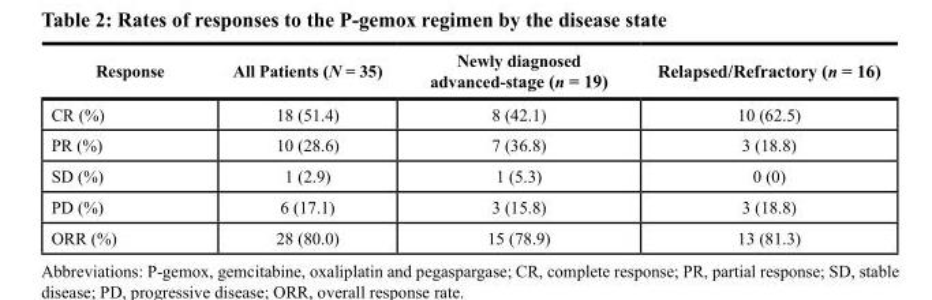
<table><thead><tr><td>Response</td><td>All Patients (N = 35)</td><td>Newly diagnosed advanced-stage (n = 19)</td><td>Relapsed/Refractory (n = 16)</td></tr></thead><tbody><tr><td>CR (%)</td><td>18 (51.4)</td><td>8 (42.1)</td><td>10 (62.5)</td></tr><tr><td>PR (%)</td><td>10 (28.6)</td><td>7 (36.8)</td><td>3 (18.8)</td></tr><tr><td>SD (%)</td><td>1 (2.9)</td><td>1 (5.3)</td><td>0 (0)</td></tr><tr><td>PD (%)</td><td>6 (17.1)</td><td>3 (15.8)</td><td>3 (18.8)</td></tr><tr><td>ORR (%)</td><td>28 (80.0)</td><td>15 (78.9)</td><td>13 (81.3)</td></tr></tbody></table>